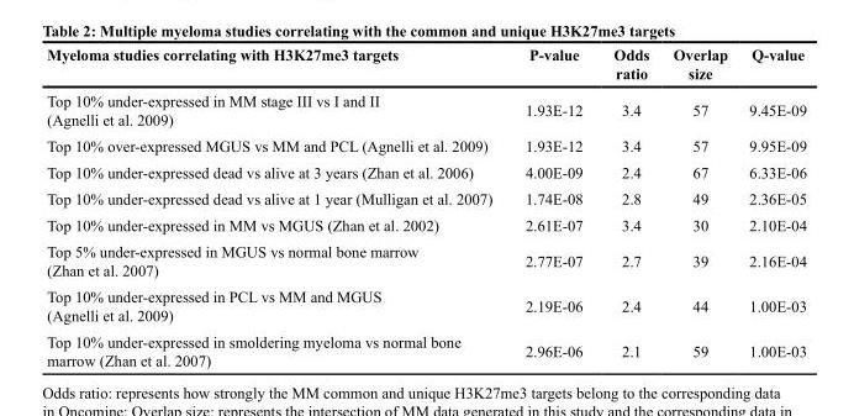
<table><thead><tr><td>Myeloma studies correlating with H3K27me3 targets</td><td>P-value</td><td>Odds ratio</td><td>Overlap size</td><td>Q-value</td></tr></thead><tbody><tr><td>Top 10% under-expressed in MM stage III vs I and II (Agnelli et al. 2009)</td><td>1.93E-12</td><td>3.4</td><td>57</td><td>9.45E-09</td></tr><tr><td>Top 10% over-expressed MGUS vs MM and PCL (Agnelli et al. 2009)</td><td>1.93E-12</td><td>3.4</td><td>57</td><td>9.95E-09</td></tr><tr><td>Top 10% under-expressed dead vs alive at 3 years (Zhan et al. 2006)</td><td>4.00E-09</td><td>2.4</td><td>67</td><td>6.33E-06</td></tr><tr><td>Top 10% under-expressed dead vs alive at 1 year (Mulligan et al. 2007)</td><td>1.74E-08</td><td>2.8</td><td>49</td><td>2.36E-05</td></tr><tr><td>Top 10% under-expressed in MM vs MGUS (Zhan et al. 2002)</td><td>2.61E-07</td><td>3.4</td><td>30</td><td>2.10E-04</td></tr><tr><td>Top 5% under-expressed in MGUS vs normal bone marrow (Zhan et al. 2007)</td><td>2.77E-07</td><td>2.7</td><td>39</td><td>2.16E-04</td></tr><tr><td>Top 10% under-expressed in PCL vs MM and MGUS (Agnelli et al. 2009)</td><td>2.19E-06</td><td>2.4</td><td>44</td><td>1.00E-03</td></tr><tr><td>Top 10% under-expressed in smoldering myeloma vs normal bone marrow (Zhan et al. 2007)</td><td>2.96E-06</td><td>2.1</td><td>59</td><td>1.00E-03</td></tr></tbody></table>